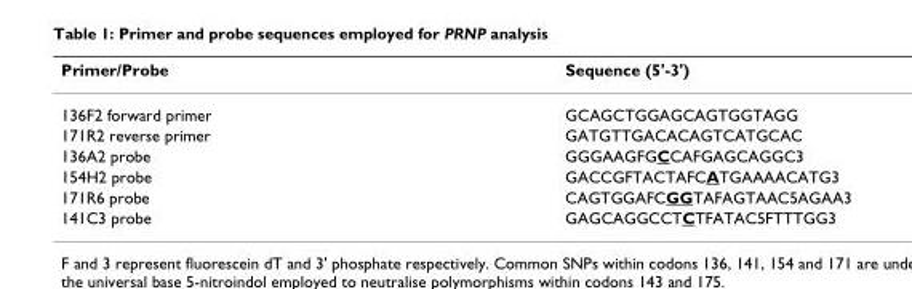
<table><thead><tr><td>Primer/Probe</td><td>Sequence (5&#x27;-3&#x27;)</td></tr></thead><tbody><tr><td>136F2 forward primer</td><td>GCAGCTGGAGCAGTGGTAGG</td></tr><tr><td>171R2 reverse primer</td><td>GATGTTGACACAGTCATGCAC</td></tr><tr><td>136A2 probe</td><td>GGGAAGFGCCAFGAGCAGGC3</td></tr><tr><td>154H2 probe</td><td>GACCGFTACTAFCATGAAAACATG3</td></tr><tr><td>171R6 probe</td><td>CAGTGGAFCGGTAFAGTAAC5AGAA3</td></tr><tr><td>141C3 probe</td><td>GAGCAGGCCTCTFATAC5FTTTGG3</td></tr></tbody></table>